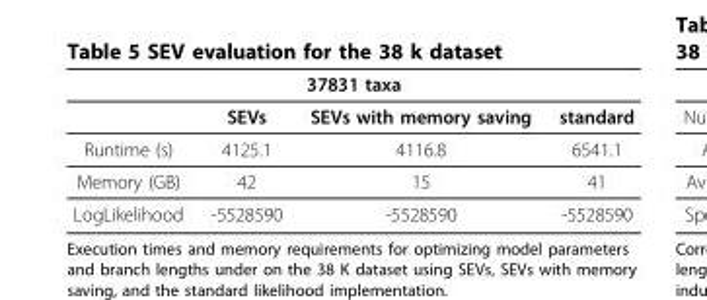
<table><thead><tr><td colspan="4">37831 taxa</td></tr><tr><td></td><td>SEVs</td><td>SEVs with memory saving</td><td>standard</td></tr></thead><tbody><tr><td>Runtime (s)</td><td>4125.1</td><td>4116.8</td><td>6541.1</td></tr><tr><td>Memory (GB)</td><td>42</td><td>15</td><td>41</td></tr><tr><td>LogLikelihood</td><td>-5528590</td><td>-5528590</td><td>-5528590</td></tr></tbody></table>